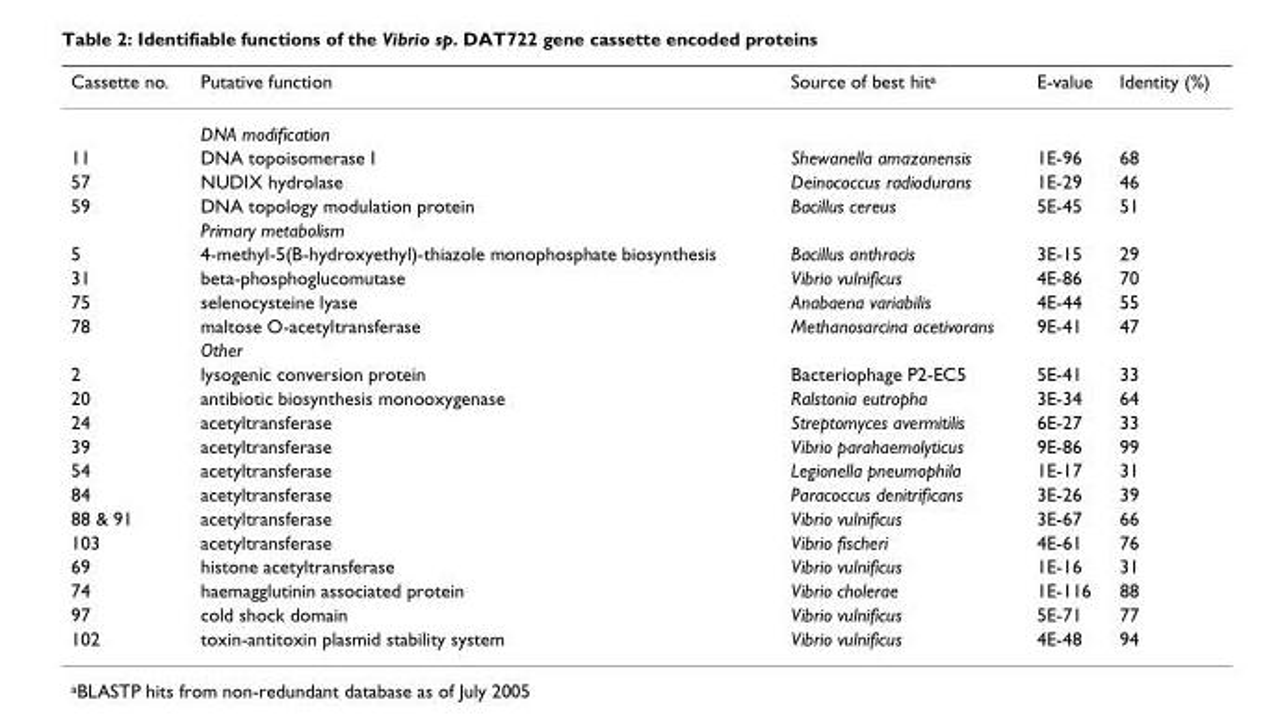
<table><thead><tr><td>Cassette no.</td><td>Putative function</td><td>Source of best hit<sup>a</sup></td><td>E-value</td><td>Identity (%)</td></tr></thead><tbody><tr><td></td><td>DNA modification</td><td></td><td></td><td></td></tr><tr><td>11</td><td>DNA topoisomerase I</td><td>Shewanella amazonensis</td><td>1E-96</td><td>68</td></tr><tr><td>57</td><td>NUDIX hydrolase</td><td>Deinococcus radiodurans</td><td>1E-29</td><td>46</td></tr><tr><td rowspan="2">59</td><td>DNA topology modulation protein</td><td>Bacillus cereus</td><td>5E-45</td><td>51</td></tr><tr><td>Primary metabolism</td><td></td><td></td><td></td></tr><tr><td>5</td><td>4-methyl-5(B-hydroxyethyl)-thiazole monophosphate biosynthesis</td><td>Bacillus anthracis</td><td>3E-15</td><td>29</td></tr><tr><td>31</td><td>beta-phosphoglucomutase</td><td>Vibrio vulnificus</td><td>4E-86</td><td>70</td></tr><tr><td>75</td><td>selenocysteine lyase</td><td>Anabaena variabilis</td><td>4E-44</td><td>55</td></tr><tr><td rowspan="2">78</td><td>maltose O-acetyltransferase</td><td>Methanosarcina acetivorans</td><td>9E-41</td><td>47</td></tr><tr><td>Other</td><td></td><td></td><td></td></tr><tr><td>2</td><td>lysogenic conversion protein</td><td>Bacteriophage P2-EC5</td><td>5E-41</td><td>33</td></tr><tr><td>20</td><td>antibiotic biosynthesis monooxygenase</td><td>Ralstonia eutropha</td><td>3E-34</td><td>64</td></tr><tr><td>24</td><td>acetyltransferase</td><td>Streptomyces avermitilis</td><td>6E-27</td><td>33</td></tr><tr><td>39</td><td>acetyltransferase</td><td>Vibrio parahaemolyticus</td><td>9E-86</td><td>99</td></tr><tr><td>54</td><td>acetyltransferase</td><td>Legionella pneumophila</td><td>1E-17</td><td>31</td></tr><tr><td>84</td><td>acetyltransferase</td><td>Paracoccus denitrificans</td><td>3E-26</td><td>39</td></tr><tr><td>88 &amp; 91</td><td>acetyltransferase</td><td>Vibrio vulnificus</td><td>3E-67</td><td>66</td></tr><tr><td>103</td><td>acetyltransferase</td><td>Vibrio fischeri</td><td>4E-61</td><td>76</td></tr><tr><td>69</td><td>histone acetyltransferase</td><td>Vibrio vulnificus</td><td>1E-16</td><td>31</td></tr><tr><td>74</td><td>haemagglutinin associated protein</td><td>Vibrio cholerae</td><td>1E-116</td><td>88</td></tr><tr><td>97</td><td>cold shock domain</td><td>Vibrio vulnificus</td><td>5E-71</td><td>77</td></tr><tr><td>102</td><td>toxin-antitoxin plasmid stability system</td><td>Vibrio vulnificus</td><td>4E-48</td><td>94</td></tr></tbody></table>